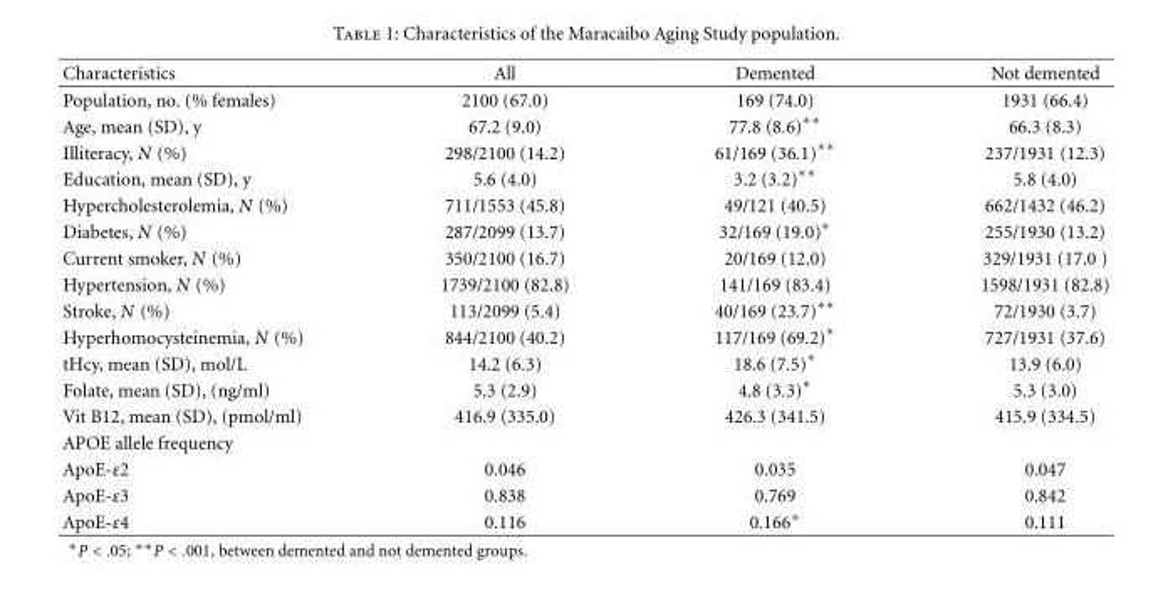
<table><thead><tr><td>Characteristics</td><td>All</td><td>Demented</td><td>Not demented</td></tr></thead><tbody><tr><td>Population, no. (% females)</td><td>2100 (67.0)</td><td>169 (74.0)</td><td>1931 (66.4)</td></tr><tr><td>Age, mean (SD), y</td><td>67.2 (9.0)</td><td>77.8 (8.6)∗∗</td><td>66.3 (8.3)</td></tr><tr><td>Illiteracy, N (%)</td><td>298/2100 (14.2)</td><td>61/169 (36.1)∗∗</td><td>237/1931 (12.3)</td></tr><tr><td>Education, mean (SD), y</td><td>5.6 (4.0)</td><td>3.2 (3.2)∗∗</td><td>5.8 (4.0)</td></tr><tr><td>Hypercholesterolemia, N (%)</td><td>711/1553 (45.8)</td><td>49/121 (40.5)</td><td>662/1432 (46.2)</td></tr><tr><td>Diabetes, N (%)</td><td>287/2099 (13.7)</td><td>32/169 (19.0)∗</td><td>255/1930 (13.2)</td></tr><tr><td>Current smoker, N (%)</td><td>350/2100 (16.7)</td><td>20/169 (12.0)</td><td>329/1931 (17.0 )</td></tr><tr><td>Hypertension, N (%)</td><td>1739/2100 (82.8)</td><td>141/169 (83.4)</td><td>1598/1931 (82.8)</td></tr><tr><td>Stroke, N (%)</td><td>113/2099 (5.4)</td><td>40/169 (23.7)∗∗</td><td>72/1930 (3.7)</td></tr><tr><td>Hyperhomocysteinemia, N (%)</td><td>844/2100 (40.2)</td><td>117/169 (69.2)∗</td><td>727/1931 (37.6)</td></tr><tr><td>tHcy, mean (SD), mol/L</td><td>14.2 (6.3)</td><td>18.6 (7.5)∗</td><td>13.9 (6.0)</td></tr><tr><td>Folate, mean (SD), (ng/ml)</td><td>5.3 (2.9)</td><td>4.8 (3.3)∗</td><td>5.3 (3.0)</td></tr><tr><td>Vit B12, mean (SD), (pmol/ml)</td><td>416.9 (335.0)</td><td>426.3 (341.5)</td><td>415.9 (334.5)</td></tr><tr><td colspan="4">APOE allele frequency</td></tr><tr><td>ApoE-ε2</td><td>0.046</td><td>0.035</td><td>0.047</td></tr><tr><td>ApoE-ε3</td><td>0.838</td><td>0.769</td><td>0.842</td></tr><tr><td>ApoE-ε4</td><td>0.116</td><td>0.166∗</td><td>0.111</td></tr></tbody></table>